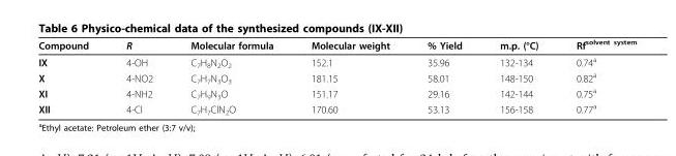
<table><thead><tr><td>Compound</td><td>R</td><td>Molecular formula</td><td>Molecular weight</td><td>% Yield</td><td>m.p. (°C)</td><td>Rf<sup>solvent system</sup></td></tr></thead><tbody><tr><td>IX</td><td>4-OH</td><td>C<sub>7</sub>H<sub>8</sub>N<sub>2</sub>O<sub>2</sub></td><td>152.1</td><td>35.96</td><td>132-134</td><td>0.74<sup>a</sup></td></tr><tr><td>X</td><td>4-NO2</td><td>C<sub>7</sub>H<sub>7</sub>N<sub>3</sub>O<sub>3</sub></td><td>181.15</td><td>58.01</td><td>148-150</td><td>0.82<sup>a</sup></td></tr><tr><td>XI</td><td>4-NH2</td><td>C<sub>7</sub>H<sub>9</sub>N<sub>3</sub>O</td><td>151.17</td><td>29.16</td><td>142-144</td><td>0.75<sup>a</sup></td></tr><tr><td>XII</td><td>4-Cl</td><td>C<sub>7</sub>H<sub>7</sub>ClN<sub>2</sub>O</td><td>170.60</td><td>53.13</td><td>156-158</td><td>0.77<sup>a</sup></td></tr></tbody></table>